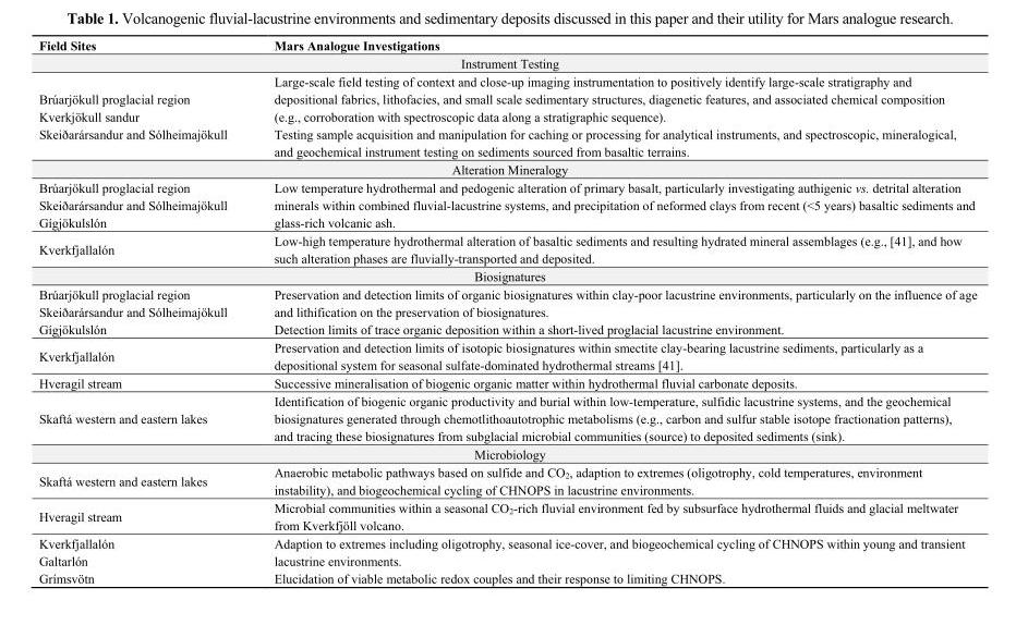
<table><thead><tr><td>Field Sites</td><td>Mars Analogue Investigations</td></tr></thead><tbody><tr><td colspan="2">Instrument Testing</td></tr><tr><td>Brúarjökull proglacial region Kverkjökull sandur Skeiðarársandur and Sólheimajökull</td><td>Large-scale field testing of context and close-up imaging instrumentation to positively identify large-scale stratigraphy and depositional fabrics, lithofacies, and small scale sedimentary structures, diagenetic features, and associated chemical composition (e.g., corroboration with spectroscopic data along a stratigraphic sequence). Testing sample acquisition and manipulation for caching or processing for analytical instruments, and spectroscopic, mineralogical, and geochemical instrument testing on sediments sourced from basaltic terrains.</td></tr><tr><td colspan="2">Alteration Mineralogy</td></tr><tr><td>Brúarjökull proglacial region Skeiðarársandur and Sólheimajökull Gígjökulslón</td><td>Low temperature hydrothermal and pedogenic alteration of primary basalt, particularly investigating authigenic vs. detrital alteration minerals within combined fluvial-lacustrine systems, and precipitation of neformed clays from recent (&lt;5 years) basaltic sediments and glass-rich volcanic ash.</td></tr><tr><td>Kverkfjallalón</td><td>Low-high temperature hydrothermal alteration of basaltic sediments and resulting hydrated mineral assemblages (e.g., [41], and how such alteration phases are fluvially-transported and deposited.</td></tr><tr><td colspan="2">Biosignatures</td></tr><tr><td>Brúarjökull proglacial region Skeiðarársandur and Sólheimajökull Gígjökulslón</td><td>Preservation and detection limits of organic biosignatures within clay-poor lacustrine environments, particularly on the influence of age and lithification on the preservation of biosignatures. Detection limits of trace organic deposition within a short-lived proglacial lacustrine environment.</td></tr><tr><td>Kverkfjallalón</td><td>Preservation and detection limits of isotopic biosignatures within smectite clay-bearing lacustrine sediments, particularly as a depositional system for seasonal sulfate-dominated hydrothermal streams [41].</td></tr><tr><td>Hveragil stream</td><td>Successive mineralisation of biogenic organic matter within hydrothermal fluvial carbonate deposits.</td></tr><tr><td>Skaftá western and eastern lakes</td><td>Identification of biogenic organic productivity and burial within low-temperature, sulfidic lacustrine systems, and the geochemical biosignatures generated through chemotlithoautotrophic metabolisms (e.g., carbon and sulfur stable isotope fractionation patterns), and tracing these biosignatures from subglacial microbial communities (source) to deposited sediments (sink).</td></tr><tr><td colspan="2">Microbiology</td></tr><tr><td>Skaftá western and eastern lakes</td><td>Anaerobic metabolic pathways based on sulfide and CO<sub>2</sub>, adaption to extremes (oligotrophy, cold temperatures, environment instability), and biogeochemical cycling of CHNOPS in lacustrine environments.</td></tr><tr><td>Hveragil stream</td><td>Microbial communities within a seasonal CO<sub>2</sub>-rich fluvial environment fed by subsurface hydrothermal fluids and glacial meltwater from Kverkfjöll volcano.</td></tr><tr><td>Kverkfjallalón Galtarlón Grímsvötn</td><td>Adaption to extremes including oligotrophy, seasonal ice-cover, and biogeochemical cycling of CHNOPS within young and transient lacustrine environments. Elucidation of viable metabolic redox couples and their response to limiting CHNOPS.</td></tr></tbody></table>